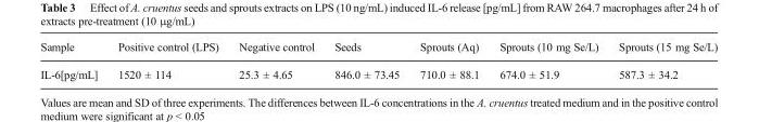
<table><thead><tr><td>Sample</td><td>Positive control (LPS)</td><td>Negative control</td><td>Seeds</td><td>Sprouts (Aq)</td><td>Sprouts (10 mg Se/L)</td><td>Sprouts (15 mg Se/L)</td></tr></thead><tbody><tr><td>IL-6[pg/mL]</td><td>1520 ± 114</td><td>25.3 ± 4.65</td><td>846.0 ± 73.45</td><td>710.0 ± 88.1</td><td>674.0 ± 51.9</td><td>587.3 ± 34.2</td></tr></tbody></table>